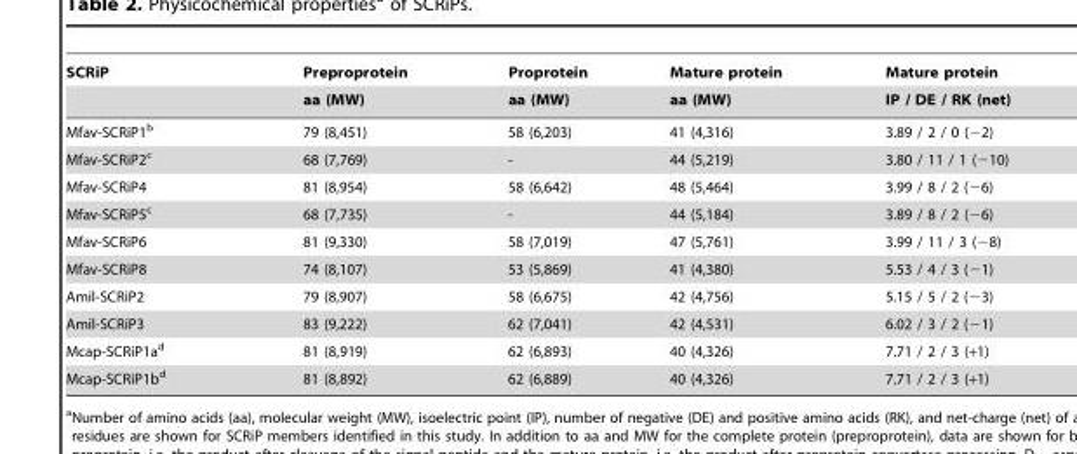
<table><thead><tr><td rowspan="2">SCRiP</td><td rowspan="2">Preproprotein aa (MW)</td><td rowspan="2">Proprotein aa (MW)</td><td rowspan="2">Mature protein aa (MW)</td><td rowspan="2">Mature protein IP / DE / RK (net)</td></tr><tr></tr></thead><tbody><tr><td>Mfav-SCRiP1<sup>b</sup></td><td>79 (8,451)</td><td>58 (6,203)</td><td>41 (4,316)</td><td>3.89 / 2 / 0 (−2)</td></tr><tr><td>Mfav-SCRiP2<sup>c</sup></td><td>68 (7,769)</td><td>-</td><td>44 (5,219)</td><td>3.80 / 11 / 1 (−10)</td></tr><tr><td>Mfav-SCRiP4</td><td>81 (8,954)</td><td>58 (6,642)</td><td>48 (5,464)</td><td>3.99 / 8 / 2 (−6)</td></tr><tr><td>Mfav-SCRiP5<sup>c</sup></td><td>68 (7,735)</td><td>-</td><td>44 (5,184)</td><td>3.89 / 8 / 2 (−6)</td></tr><tr><td>Mfav-SCRiP6</td><td>81 (9,330)</td><td>58 (7,019)</td><td>47 (5,761)</td><td>3.99 / 11 / 3 (−8)</td></tr><tr><td>Mfav-SCRiP8</td><td>74 (8,107)</td><td>53 (5,869)</td><td>41 (4,380)</td><td>5.53 / 4 / 3 (−1)</td></tr><tr><td>Amil-SCRiP2</td><td>79 (8,907)</td><td>58 (6,675)</td><td>42 (4,756)</td><td>5.15 / 5 / 2 (−3)</td></tr><tr><td>Amil-SCRiP3</td><td>83 (9,222)</td><td>62 (7,041)</td><td>42 (4,531)</td><td>6.02 / 3 / 2 (−1)</td></tr><tr><td>Mcap-SCRiP1a<sup>d</sup></td><td>81 (8,919)</td><td>62 (6,893)</td><td>40 (4,326)</td><td>7.71 / 2 / 3 (+1)</td></tr><tr><td>Mcap-SCRiP1b<sup>d</sup></td><td>81 (8,892)</td><td>62 (6,889)</td><td>40 (4,326)</td><td>7.71 / 2 / 3 (+1)</td></tr></tbody></table>